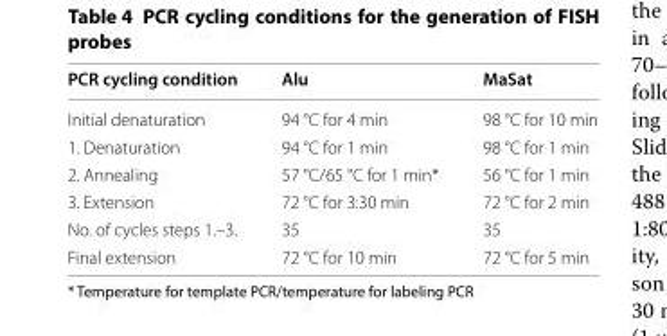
<table><thead><tr><td>PCR cycling condition</td><td>Alu</td><td>MaSat</td></tr></thead><tbody><tr><td>Initial denaturation</td><td>94 °C for 4 min</td><td>98 °C for 10 min</td></tr><tr><td>1. Denaturation</td><td>94 °C for 1 min</td><td>98 °C for 1 min</td></tr><tr><td>2. Annealing</td><td>57 °C/65 °C for 1 min*</td><td>56 °C for 1 min</td></tr><tr><td>3. Extension</td><td>72 °C for 3:30 min</td><td>72 °C for 2 min</td></tr><tr><td>No. of cycles steps 1.–3.</td><td>35</td><td>35</td></tr><tr><td>Final extension</td><td>72 °C for 10 min</td><td>72 °C for 5 min</td></tr></tbody></table>